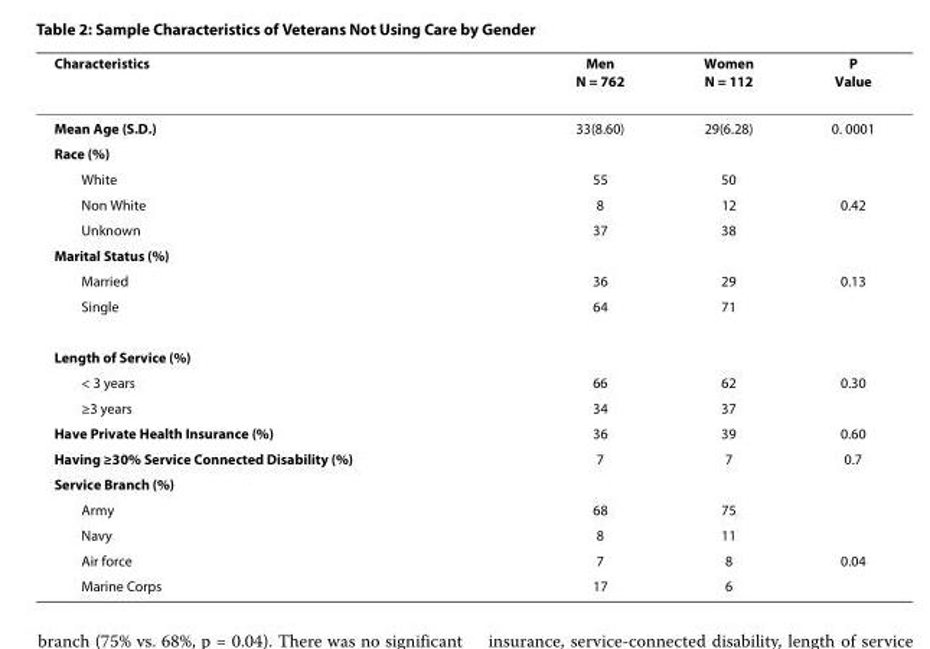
<table><thead><tr><td>Characteristics</td><td>Men N = 762</td><td>Women N = 112</td><td>P Value</td></tr></thead><tbody><tr><td>Mean Age (S.D.)</td><td>33(8.60)</td><td>29(6.28)</td><td>0. 0001</td></tr><tr><td colspan="4">Race (%)</td></tr><tr><td>White</td><td>55</td><td>50</td><td></td></tr><tr><td>Non White</td><td>8</td><td>12</td><td>0.42</td></tr><tr><td>Unknown</td><td>37</td><td>38</td><td></td></tr><tr><td colspan="4">Marital Status (%)</td></tr><tr><td>Married</td><td>36</td><td>29</td><td>0.13</td></tr><tr><td>Single</td><td>64</td><td>71</td><td></td></tr><tr><td colspan="4">Length of Service (%)</td></tr><tr><td>&lt; 3 years</td><td>66</td><td>62</td><td>0.30</td></tr><tr><td>≥3 years</td><td>34</td><td>37</td><td></td></tr><tr><td>Have Private Health Insurance (%)</td><td>36</td><td>39</td><td>0.60</td></tr><tr><td>Having ≥30% Service Connected Disability (%)</td><td>7</td><td>7</td><td>0.7</td></tr><tr><td colspan="4">Service Branch (%)</td></tr><tr><td>Army</td><td>68</td><td>75</td><td></td></tr><tr><td>Navy</td><td>8</td><td>11</td><td></td></tr><tr><td>Air force</td><td>7</td><td>8</td><td>0.04</td></tr><tr><td>Marine Corps</td><td>17</td><td>6</td><td></td></tr></tbody></table>